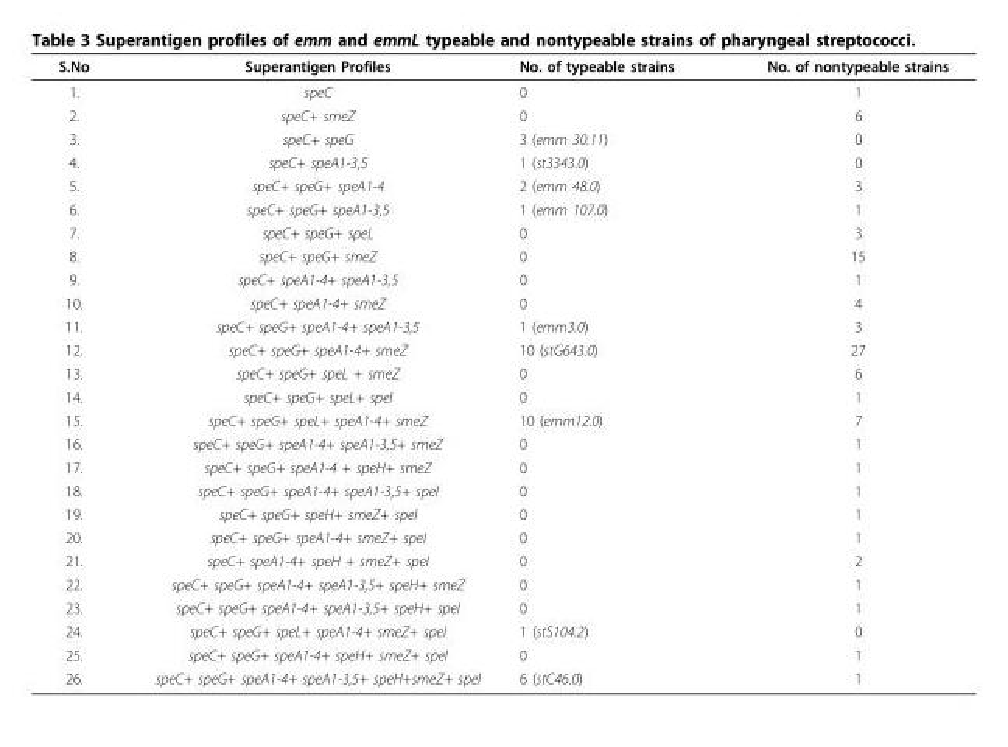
<table><thead><tr><td>S.No</td><td>Superantigen Profiles</td><td>No. of typeable strains</td><td>No. of nontypeable strains</td></tr></thead><tbody><tr><td>1.</td><td>speC</td><td>0</td><td>1</td></tr><tr><td>2.</td><td>speC+ smeZ</td><td>0</td><td>6</td></tr><tr><td>3.</td><td>speC+ speG</td><td>3 (emm 30.11)</td><td>0</td></tr><tr><td>4.</td><td>speC+ speA1-3,5</td><td>1 (st3343.0)</td><td>0</td></tr><tr><td>5.</td><td>speC+ speG+ speA1-4</td><td>2 (emm 48.0)</td><td>3</td></tr><tr><td>6.</td><td>speC+ speG+ speA1-3,5</td><td>1 (emm 107.0)</td><td>1</td></tr><tr><td>7.</td><td>speC+ speG+ speL</td><td>0</td><td>3</td></tr><tr><td>8.</td><td>speC+ speG+ smeZ</td><td>0</td><td>15</td></tr><tr><td>9.</td><td>speC+ speA1-4+ speA1-3,5</td><td>0</td><td>1</td></tr><tr><td>10.</td><td>speC+ speA1-4+ smeZ</td><td>0</td><td>4</td></tr><tr><td>11.</td><td>speC+ speG+ speA1-4+ speA1-3,5</td><td>1 (emm3.0)</td><td>3</td></tr><tr><td>12.</td><td>speC+ speG+ speA1-4+ smeZ</td><td>10 (stG643.0)</td><td>27</td></tr><tr><td>13.</td><td>speC+ speG+ speL + smeZ</td><td>0</td><td>6</td></tr><tr><td>14.</td><td>speC+ speG+ speL+ speI</td><td>0</td><td>1</td></tr><tr><td>15.</td><td>speC+ speG+ speL+ speA1-4+ smeZ</td><td>10 (emm12.0)</td><td>7</td></tr><tr><td>16.</td><td>speC+ speG+ speA1-4+ speA1-3,5+ smeZ</td><td>0</td><td>1</td></tr><tr><td>17.</td><td>speC+ speG+ speA1-4 + speH+ smeZ</td><td>0</td><td>1</td></tr><tr><td>18.</td><td>speC+ speG+ speA1-4+ speA1-3,5+ speI</td><td>0</td><td>1</td></tr><tr><td>19.</td><td>speC+ speG+ speH+ smeZ+ speI</td><td>0</td><td>1</td></tr><tr><td>20.</td><td>speC+ speG+ speA1-4+ smeZ+ speI</td><td>0</td><td>1</td></tr><tr><td>21.</td><td>speC+ speA1-4+ speH + smeZ+ speI</td><td>0</td><td>2</td></tr><tr><td>22.</td><td>speC+ speG+ speA1-4+ speA1-3,5+ speH+ smeZ</td><td>0</td><td>1</td></tr><tr><td>23.</td><td>speC+ speG+ speA1-4+ speA1-3,5+ speH+ speI</td><td>0</td><td>1</td></tr><tr><td>24.</td><td>speC+ speG+ speL+ speA1-4+ smeZ+ speI</td><td>1 (stS104.2)</td><td>0</td></tr><tr><td>25.</td><td>speC+ speG+ speA1-4+ speH+ smeZ+ speI</td><td>0</td><td>1</td></tr><tr><td>26.</td><td>speC+ speG+ speA1-4+ speA1-3,5+ speH+smeZ+ speI</td><td>6 (stC46.0)</td><td>1</td></tr></tbody></table>